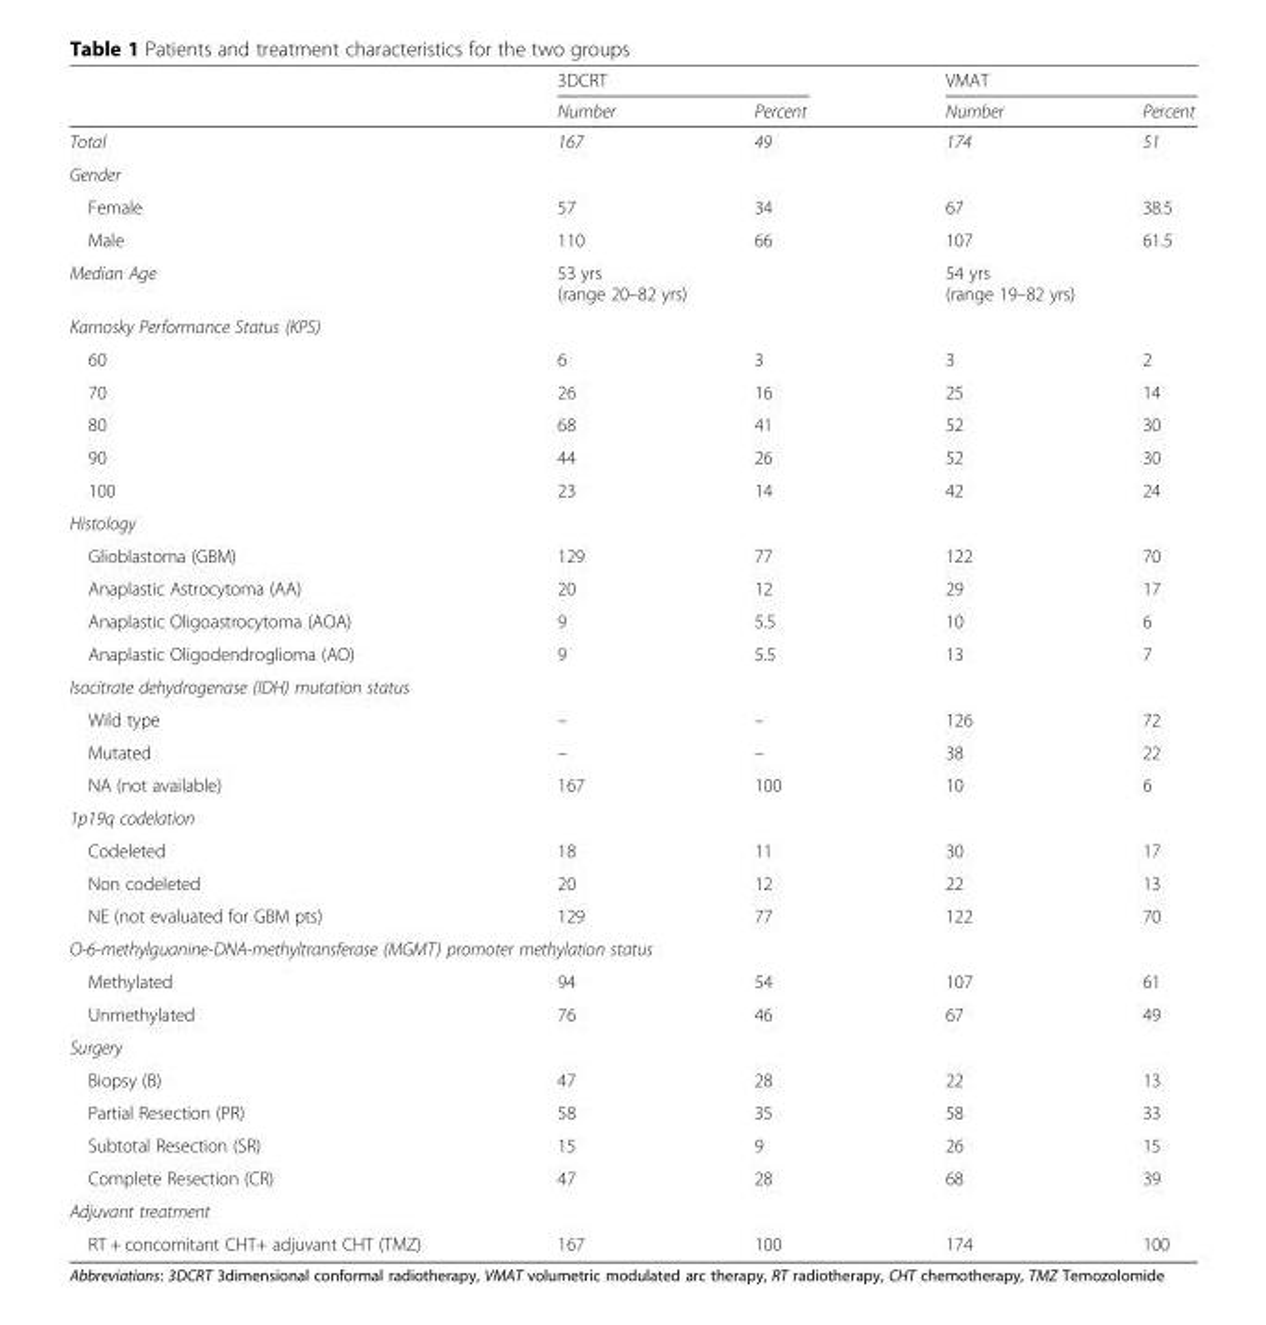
<table><thead><tr><td rowspan="2"></td><td colspan="2">3DCRT</td><td colspan="2">VMAT</td></tr><tr><td>Number</td><td>Percent</td><td>Number</td><td>Percent</td></tr></thead><tbody><tr><td>Total</td><td>167</td><td>49</td><td>174</td><td>51</td></tr><tr><td colspan="5">Gender</td></tr><tr><td>Female</td><td>57</td><td>34</td><td>67</td><td>38.5</td></tr><tr><td>Male</td><td>110</td><td>66</td><td>107</td><td>61.5</td></tr><tr><td>Median Age</td><td colspan="2">53 yrs (range 20–82 yrs)</td><td colspan="2">54 yrs (range 19–82 yrs)</td></tr><tr><td colspan="5">Karnosky Performance Status (KPS)</td></tr><tr><td>60</td><td>6</td><td>3</td><td>3</td><td>2</td></tr><tr><td>70</td><td>26</td><td>16</td><td>25</td><td>14</td></tr><tr><td>80</td><td>68</td><td>41</td><td>52</td><td>30</td></tr><tr><td>90</td><td>44</td><td>26</td><td>52</td><td>30</td></tr><tr><td>100</td><td>23</td><td>14</td><td>42</td><td>24</td></tr><tr><td colspan="5">Histology</td></tr><tr><td>Glioblastoma (GBM)</td><td>129</td><td>77</td><td>122</td><td>70</td></tr><tr><td>Anaplastic Astrocytoma (AA)</td><td>20</td><td>12</td><td>29</td><td>17</td></tr><tr><td>Anaplastic Oligoastrocytoma (AOA)</td><td>9</td><td>5.5</td><td>10</td><td>6</td></tr><tr><td>Anaplastic Oligodendroglioma (AO)</td><td>9</td><td>5.5</td><td>13</td><td>7</td></tr><tr><td colspan="5">Isocitrate dehydrogenase (IDH) mutation status</td></tr><tr><td>Wild type</td><td>–</td><td>–</td><td>126</td><td>72</td></tr><tr><td>Mutated</td><td>–</td><td>–</td><td>38</td><td>22</td></tr><tr><td>NA (not available)</td><td>167</td><td>100</td><td>10</td><td>6</td></tr><tr><td colspan="5">1p19q codelation</td></tr><tr><td>Codeleted</td><td>18</td><td>11</td><td>30</td><td>17</td></tr><tr><td>Non codeleted</td><td>20</td><td>12</td><td>22</td><td>13</td></tr><tr><td>NE (not evaluated for GBM pts)</td><td>129</td><td>77</td><td>122</td><td>70</td></tr><tr><td colspan="5">O-6-methylguanine-DNA-methyltransferase (MGMT) promoter methylation status</td></tr><tr><td>Methylated</td><td>94</td><td>54</td><td>107</td><td>61</td></tr><tr><td>Unmethylated</td><td>76</td><td>46</td><td>67</td><td>49</td></tr><tr><td colspan="5">Surgery</td></tr><tr><td>Biopsy (B)</td><td>47</td><td>28</td><td>22</td><td>13</td></tr><tr><td>Partial Resection (PR)</td><td>58</td><td>35</td><td>58</td><td>33</td></tr><tr><td>Subtotal Resection (SR)</td><td>15</td><td>9</td><td>26</td><td>15</td></tr><tr><td>Complete Resection (CR)</td><td>47</td><td>28</td><td>68</td><td>39</td></tr><tr><td colspan="5">Adjuvant treatment</td></tr><tr><td>RT + concomitant CHT+ adjuvant CHT (TMZ)</td><td>167</td><td>100</td><td>174</td><td>100</td></tr></tbody></table>